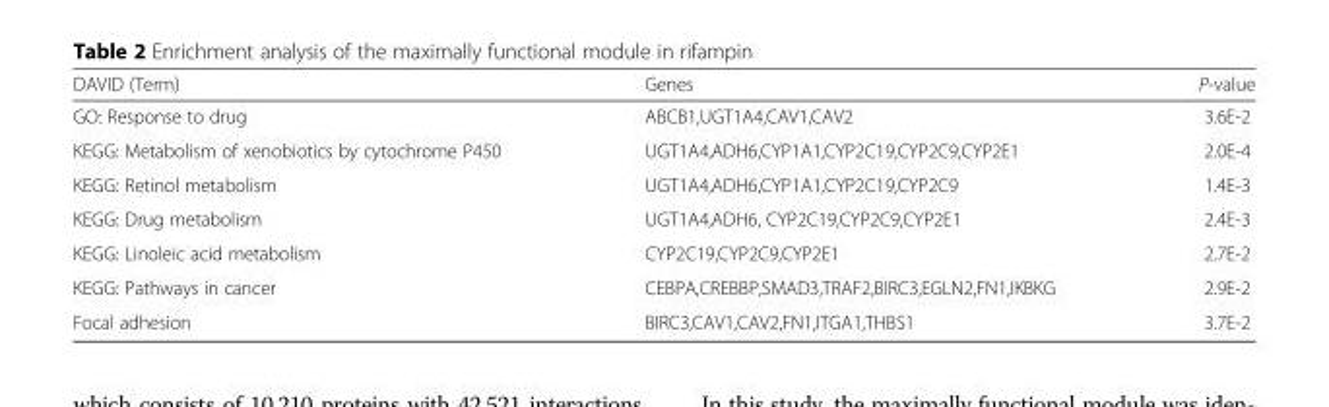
<table><thead><tr><td>DAVID (Term)</td><td>Genes</td><td>P-value</td></tr></thead><tbody><tr><td>GO: Response to drug</td><td>ABCB1,UGT1A4,CAV1,CAV2</td><td>3.6E-2</td></tr><tr><td>KEGG: Metabolism of xenobiotics by cytochrome P450</td><td>UGT1A4,ADH6,CYP1A1,CYP2C19,CYP2C9,CYP2E1</td><td>2.0E-4</td></tr><tr><td>KEGG: Retinol metabolism</td><td>UGT1A4,ADH6,CYP1A1,CYP2C19,CYP2C9</td><td>1.4E-3</td></tr><tr><td>KEGG: Drug metabolism</td><td>UGT1A4,ADH6, CYP2C19,CYP2C9,CYP2E1</td><td>2.4E-3</td></tr><tr><td>KEGG: Linoleic acid metabolism</td><td>CYP2C19,CYP2C9,CYP2E1</td><td>2.7E-2</td></tr><tr><td>KEGG: Pathways in cancer</td><td>CEBPA,CREBBP,SMAD3,TRAF2,BIRC3,EGLN2,FN1,IKBKG</td><td>2.9E-2</td></tr><tr><td>Focal adhesion</td><td>BIRC3,CAV1,CAV2,FN1,ITGA1,THBS1</td><td>3.7E-2</td></tr></tbody></table>